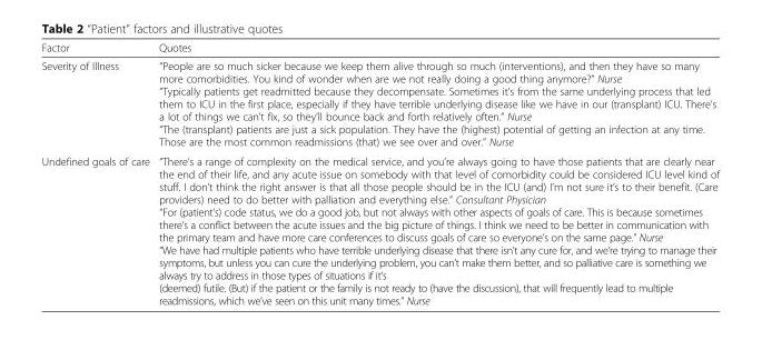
<table><thead><tr><td>Factor</td><td>Quotes</td></tr></thead><tbody><tr><td>Severity of Illness</td><td>“People are so much sicker because we keep them alive through so much (interventions), and then they have so many more comorbidities. You kind of wonder when are we not really doing a good thing anymore?” Nurse “Typically patients get readmitted because they decompensate. Sometimes it’s from the same underlying process that led them to ICU in the first place, especially if they have terrible underlying disease like we have in our (transplant) ICU. There’s a lot of things we can’t fix, so they’ll bounce back and forth relatively often.” Nurse “The (transplant) patients are just a sick population. They have the (highest) potential of getting an infection at any time. Those are the most common readmissions (that) we see over and over.” Nurse</td></tr><tr><td>Undefined goals of care</td><td>“There’s a range of complexity on the medical service, and you’re always going to have those patients that are clearly near the end of their life, and any acute issue on somebody with that level of comorbidity could be considered ICU level kind of stuff. I don’t think the right answer is that all those people should be in the ICU (and) I’m not sure it’s to their benefit. (Care providers) need to do better with palliation and everything else.” Consultant Physician “For (patient’s) code status, we do a good job, but not always with other aspects of goals of care. This is because sometimes there’s a conflict between the acute issues and the big picture of things. I think we need to be better in communication with the primary team and have more care conferences to discuss goals of care so everyone’s on the same page.” Nurse “We have had multiple patients who have terrible underlying disease that there isn’t any cure for, and we’re trying to manage their symptoms, but unless you can cure the underlying problem, you can’t make them better, and so palliative care is something we always try to address in those types of situations if it’s (deemed) futile. (But) if the patient or the family is not ready to (have the discussion), that will frequently lead to multiple readmissions, which we’ve seen on this unit many times.” Nurse</td></tr></tbody></table>